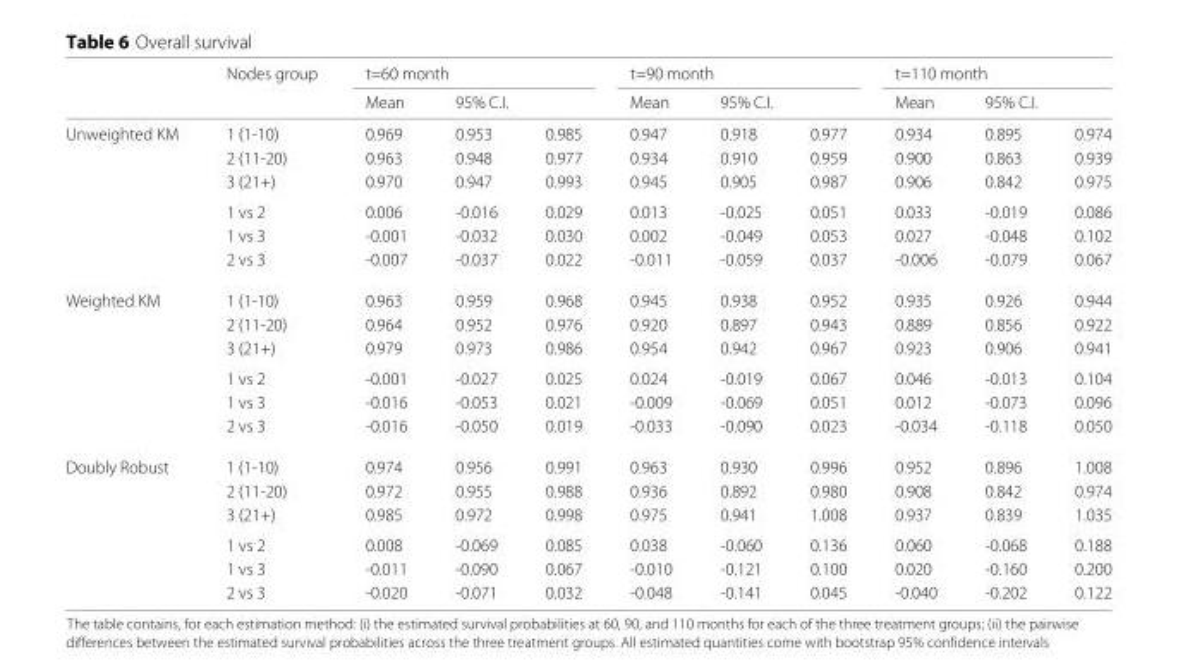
<table><thead><tr><td rowspan="3">Unweighted KM</td><td rowspan="3">Nodes group 1 (1-10)</td><td colspan="3">t=60 month</td><td colspan="3">t=90 month</td><td colspan="3">t=110 month</td></tr><tr><td rowspan="2">Mean 0.969</td><td colspan="2">95% C.I.</td><td rowspan="2">Mean 0.947</td><td colspan="2">95% C.I.</td><td rowspan="2">Mean 0.934</td><td colspan="2">95% C.I.</td></tr><tr><td>0.953</td><td>0.985</td><td>0.918</td><td>0.977</td><td>0.895</td><td>0.974</td></tr></thead><tbody><tr><td></td><td>2 (11-20)</td><td>0.963</td><td>0.948</td><td>0.977</td><td>0.934</td><td>0.910</td><td>0.959</td><td>0.900</td><td>0.863</td><td>0.939</td></tr><tr><td></td><td>3 (21+)</td><td>0.970</td><td>0.947</td><td>0.993</td><td>0.945</td><td>0.905</td><td>0.987</td><td>0.906</td><td>0.842</td><td>0.975</td></tr><tr><td></td><td>1 vs 2</td><td>0.006</td><td>-0.016</td><td>0.029</td><td>0.013</td><td>-0.025</td><td>0.051</td><td>0.033</td><td>-0.019</td><td>0.086</td></tr><tr><td></td><td>1 vs 3</td><td>-0.001</td><td>-0.032</td><td>0.030</td><td>0.002</td><td>-0.049</td><td>0.053</td><td>0.027</td><td>-0.048</td><td>0.102</td></tr><tr><td></td><td>2 vs 3</td><td>-0.007</td><td>-0.037</td><td>0.022</td><td>-0.011</td><td>-0.059</td><td>0.037</td><td>-0.006</td><td>-0.079</td><td>0.067</td></tr><tr><td rowspan="6">Weighted KM</td><td>1 (1-10)</td><td>0.963</td><td>0.959</td><td>0.968</td><td>0.945</td><td>0.938</td><td>0.952</td><td>0.935</td><td>0.926</td><td>0.944</td></tr><tr><td>2 (11-20)</td><td>0.964</td><td>0.952</td><td>0.976</td><td>0.920</td><td>0.897</td><td>0.943</td><td>0.889</td><td>0.856</td><td>0.922</td></tr><tr><td>3 (21+)</td><td>0.979</td><td>0.973</td><td>0.986</td><td>0.954</td><td>0.942</td><td>0.967</td><td>0.923</td><td>0.906</td><td>0.941</td></tr><tr><td>1 vs 2</td><td>-0.001</td><td>-0.027</td><td>0.025</td><td>0.024</td><td>-0.019</td><td>0.067</td><td>0.046</td><td>-0.013</td><td>0.104</td></tr><tr><td>1 vs 3</td><td>-0.016</td><td>-0.053</td><td>0.021</td><td>-0.009</td><td>-0.069</td><td>0.051</td><td>0.012</td><td>-0.073</td><td>0.096</td></tr><tr><td>2 vs 3</td><td>-0.016</td><td>-0.050</td><td>0.019</td><td>-0.033</td><td>-0.090</td><td>0.023</td><td>-0.034</td><td>-0.118</td><td>0.050</td></tr><tr><td rowspan="6">Doubly Robust</td><td>1 (1-10)</td><td>0.974</td><td>0.956</td><td>0.991</td><td>0.963</td><td>0.930</td><td>0.996</td><td>0.952</td><td>0.896</td><td>1.008</td></tr><tr><td>2 (11-20)</td><td>0.972</td><td>0.955</td><td>0.988</td><td>0.936</td><td>0.892</td><td>0.980</td><td>0.908</td><td>0.842</td><td>0.974</td></tr><tr><td>3 (21+)</td><td>0.985</td><td>0.972</td><td>0.998</td><td>0.975</td><td>0.941</td><td>1.008</td><td>0.937</td><td>0.839</td><td>1.035</td></tr><tr><td>1 vs 2</td><td>0.008</td><td>-0.069</td><td>0.085</td><td>0.038</td><td>-0.060</td><td>0.136</td><td>0.060</td><td>-0.068</td><td>0.188</td></tr><tr><td>1 vs 3</td><td>-0.011</td><td>-0.090</td><td>0.067</td><td>-0.010</td><td>-0.121</td><td>0.100</td><td>0.020</td><td>-0.160</td><td>0.200</td></tr><tr><td>2 vs 3</td><td>-0.020</td><td>-0.071</td><td>0.032</td><td>-0.048</td><td>-0.141</td><td>0.045</td><td>-0.040</td><td>-0.202</td><td>0.122</td></tr></tbody></table>